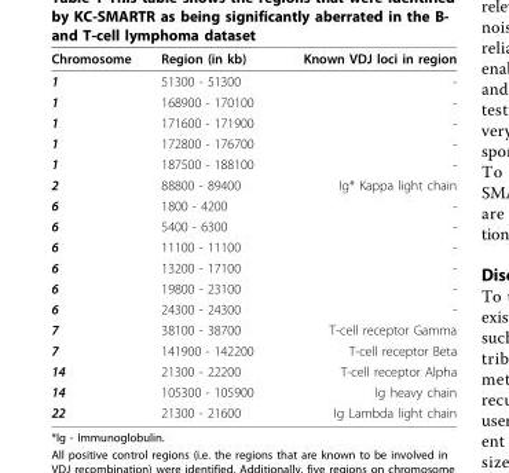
<table><thead><tr><td>Chromosome</td><td>Region (in kb)</td><td>Known VDJ loci in region</td></tr></thead><tbody><tr><td>1</td><td>51300 - 51300</td><td>-</td></tr><tr><td>1</td><td>168900 - 170100</td><td>-</td></tr><tr><td>1</td><td>171600 - 171900</td><td>-</td></tr><tr><td>1</td><td>172800 - 176700</td><td>-</td></tr><tr><td>1</td><td>187500 - 188100</td><td>-</td></tr><tr><td>2</td><td>88800 - 89400</td><td>Ig* Kappa light chain</td></tr><tr><td>6</td><td>1800 - 4200</td><td>-</td></tr><tr><td>6</td><td>5400 - 6300</td><td>-</td></tr><tr><td>6</td><td>11100 - 11100</td><td>-</td></tr><tr><td>6</td><td>13200 - 17100</td><td>-</td></tr><tr><td>6</td><td>19800 - 23100</td><td>-</td></tr><tr><td>6</td><td>24300 - 24300</td><td>-</td></tr><tr><td>7</td><td>38100 - 38700</td><td>T-cell receptor Gamma</td></tr><tr><td>7</td><td>141900 - 142200</td><td>T-cell receptor Beta</td></tr><tr><td>14</td><td>21300 - 22200</td><td>T-cell receptor Alpha</td></tr><tr><td>14</td><td>105300 - 105900</td><td>Ig heavy chain</td></tr><tr><td>22</td><td>21300 - 21600</td><td>Ig Lambda light chain</td></tr></tbody></table>